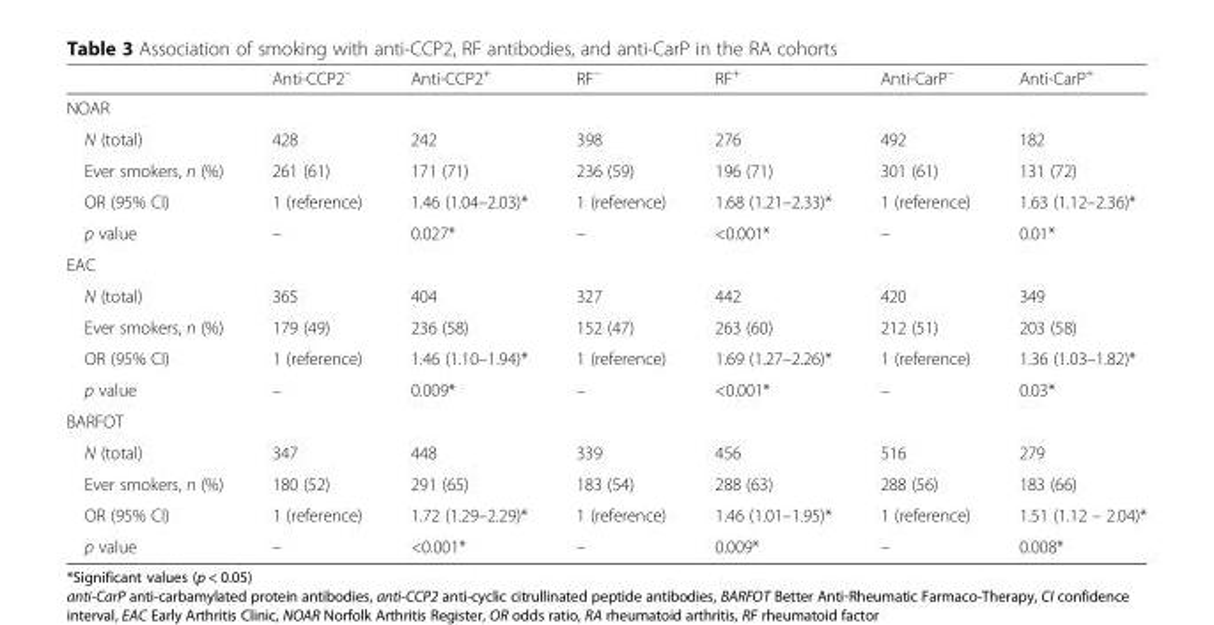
<table><thead><tr><td></td><td>Anti-CCP2<sup>–</sup></td><td>Anti-CCP2<sup>+</sup></td><td>RF<sup>–</sup></td><td>RF<sup>+</sup></td><td>Anti-CarP<sup>–</sup></td><td>Anti-CarP<sup>+</sup></td></tr></thead><tbody><tr><td colspan="7">NOAR</td></tr><tr><td>N (total)</td><td>428</td><td>242</td><td>398</td><td>276</td><td>492</td><td>182</td></tr><tr><td>Ever smokers, n (%)</td><td>261 (61)</td><td>171 (71)</td><td>236 (59)</td><td>196 (71)</td><td>301 (61)</td><td>131 (72)</td></tr><tr><td>OR (95% CI)</td><td>1 (reference)</td><td>1.46 (1.04–2.03)*</td><td>1 (reference)</td><td>1.68 (1.21–2.33)*</td><td>1 (reference)</td><td>1.63 (1.12–2.36)*</td></tr><tr><td>p value</td><td>–</td><td>0.027*</td><td>–</td><td>&lt;0.001*</td><td>–</td><td>0.01*</td></tr><tr><td colspan="7">EAC</td></tr><tr><td>N (total)</td><td>365</td><td>404</td><td>327</td><td>442</td><td>420</td><td>349</td></tr><tr><td>Ever smokers, n (%)</td><td>179 (49)</td><td>236 (58)</td><td>152 (47)</td><td>263 (60)</td><td>212 (51)</td><td>203 (58)</td></tr><tr><td>OR (95% CI)</td><td>1 (reference)</td><td>1.46 (1.10–1.94)*</td><td>1 (reference)</td><td>1.69 (1.27–2.26)*</td><td>1 (reference)</td><td>1.36 (1.03–1.82)*</td></tr><tr><td>p value</td><td>–</td><td>0.009*</td><td>–</td><td>&lt;0.001*</td><td>–</td><td>0.03*</td></tr><tr><td colspan="7">BARFOT</td></tr><tr><td>N (total)</td><td>347</td><td>448</td><td>339</td><td>456</td><td>516</td><td>279</td></tr><tr><td>Ever smokers, n (%)</td><td>180 (52)</td><td>291 (65)</td><td>183 (54)</td><td>288 (63)</td><td>288 (56)</td><td>183 (66)</td></tr><tr><td>OR (95% CI)</td><td>1 (reference)</td><td>1.72 (1.29–2.29)*</td><td>1 (reference)</td><td>1.46 (1.01–1.95)*</td><td>1 (reference)</td><td>1.51 (1.12 – 2.04)*</td></tr><tr><td>p value</td><td>–</td><td>&lt;0.001*</td><td>–</td><td>0.009*</td><td>–</td><td>0.008*</td></tr></tbody></table>